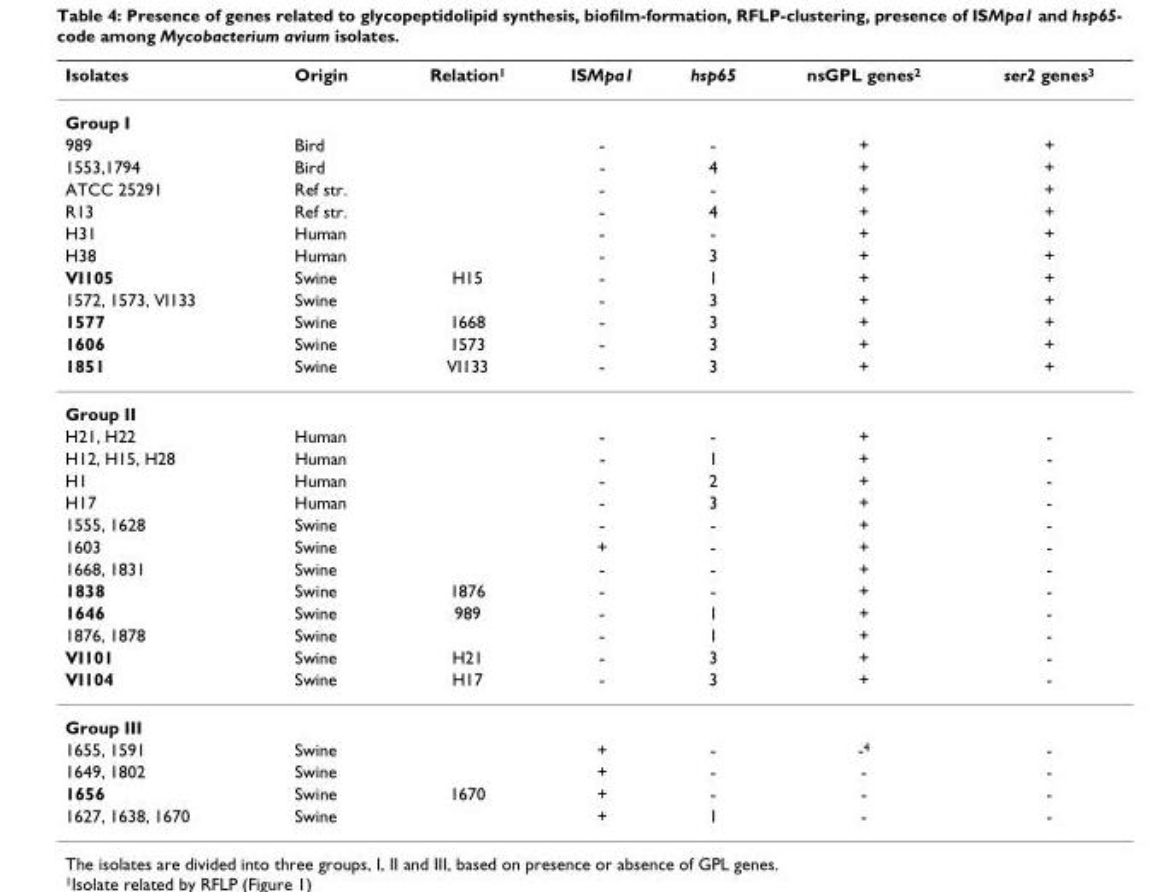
<table><thead><tr><td>Isolates</td><td>Origin</td><td>Relation<sup>1</sup></td><td>ISMpa1</td><td>hsp65</td><td>nsGPL genes<sup>2</sup></td><td>ser2 genes<sup>3</sup></td></tr></thead><tbody><tr><td colspan="7">Group I</td></tr><tr><td>989</td><td>Bird</td><td></td><td>-</td><td>-</td><td>+</td><td>+</td></tr><tr><td>1553,1794</td><td>Bird</td><td></td><td>-</td><td>4</td><td>+</td><td>+</td></tr><tr><td>ATCC 25291</td><td>Ref str.</td><td></td><td>-</td><td>-</td><td>+</td><td>+</td></tr><tr><td>R13</td><td>Ref str.</td><td></td><td>-</td><td>4</td><td>+</td><td>+</td></tr><tr><td>H31</td><td>Human</td><td></td><td>-</td><td>-</td><td>+</td><td>+</td></tr><tr><td>H38</td><td>Human</td><td></td><td>-</td><td>3</td><td>+</td><td>+</td></tr><tr><td>VI105</td><td>Swine</td><td>H15</td><td>-</td><td>1</td><td>+</td><td>+</td></tr><tr><td>1572, 1573, VI133</td><td>Swine</td><td></td><td>-</td><td>3</td><td>+</td><td>+</td></tr><tr><td>1577</td><td>Swine</td><td>1668</td><td>-</td><td>3</td><td>+</td><td>+</td></tr><tr><td>1606</td><td>Swine</td><td>1573</td><td>-</td><td>3</td><td>+</td><td>+</td></tr><tr><td>1851</td><td>Swine</td><td>VI133</td><td>-</td><td>3</td><td>+</td><td>+</td></tr><tr><td colspan="7">Group II</td></tr><tr><td>H21, H22</td><td>Human</td><td></td><td>-</td><td>-</td><td>+</td><td>-</td></tr><tr><td>H12, H15, H28</td><td>Human</td><td></td><td>-</td><td>1</td><td>+</td><td>-</td></tr><tr><td>H1</td><td>Human</td><td></td><td>-</td><td>2</td><td>+</td><td>-</td></tr><tr><td>H17</td><td>Human</td><td></td><td>-</td><td>3</td><td>+</td><td>-</td></tr><tr><td>1555, 1628</td><td>Swine</td><td></td><td>-</td><td>-</td><td>+</td><td>-</td></tr><tr><td>1603</td><td>Swine</td><td></td><td>+</td><td>-</td><td>+</td><td>-</td></tr><tr><td>1668, 1831</td><td>Swine</td><td></td><td>-</td><td>-</td><td>+</td><td>-</td></tr><tr><td>1838</td><td>Swine</td><td>1876</td><td>-</td><td>-</td><td>+</td><td>-</td></tr><tr><td>1646</td><td>Swine</td><td>989</td><td>-</td><td>1</td><td>+</td><td>-</td></tr><tr><td>1876, 1878</td><td>Swine</td><td></td><td>-</td><td>1</td><td>+</td><td>-</td></tr><tr><td>VI101</td><td>Swine</td><td>H21</td><td>-</td><td>3</td><td>+</td><td>-</td></tr><tr><td>VI104</td><td>Swine</td><td>H17</td><td>-</td><td>3</td><td>+</td><td>-</td></tr><tr><td colspan="7">Group III</td></tr><tr><td>1655, 1591</td><td>Swine</td><td></td><td>+</td><td>-</td><td>-<sup>4</sup></td><td>-</td></tr><tr><td>1649, 1802</td><td>Swine</td><td></td><td>+</td><td>-</td><td>-</td><td>-</td></tr><tr><td>1656</td><td>Swine</td><td>1670</td><td>+</td><td>-</td><td>-</td><td>-</td></tr><tr><td>1627, 1638, 1670</td><td>Swine</td><td></td><td>+</td><td>1</td><td>-</td><td>-</td></tr></tbody></table>